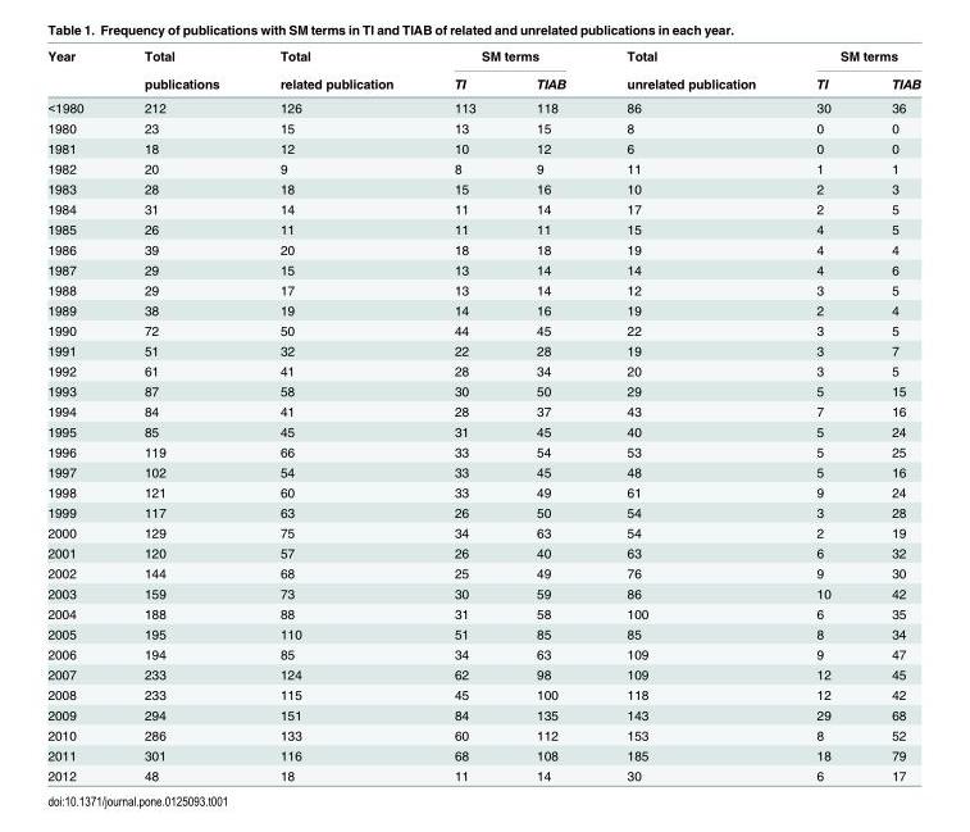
<table><thead><tr><td rowspan="2">Year</td><td rowspan="2">Total publications</td><td rowspan="2">Total related publication</td><td colspan="2">SM terms</td><td rowspan="2">Total unrelated publication</td><td colspan="2">SM terms</td></tr><tr><td>TI</td><td>TIAB</td><td>TI</td><td>TIAB</td></tr></thead><tbody><tr><td>&lt;1980</td><td>212</td><td>126</td><td>113</td><td>118</td><td>86</td><td>30</td><td>36</td></tr><tr><td>1980</td><td>23</td><td>15</td><td>13</td><td>15</td><td>8</td><td>0</td><td>0</td></tr><tr><td>1981</td><td>18</td><td>12</td><td>10</td><td>12</td><td>6</td><td>0</td><td>0</td></tr><tr><td>1982</td><td>20</td><td>9</td><td>8</td><td>9</td><td>11</td><td>1</td><td>1</td></tr><tr><td>1983</td><td>28</td><td>18</td><td>15</td><td>16</td><td>10</td><td>2</td><td>3</td></tr><tr><td>1984</td><td>31</td><td>14</td><td>11</td><td>14</td><td>17</td><td>2</td><td>5</td></tr><tr><td>1985</td><td>26</td><td>11</td><td>11</td><td>11</td><td>15</td><td>4</td><td>5</td></tr><tr><td>1986</td><td>39</td><td>20</td><td>18</td><td>18</td><td>19</td><td>4</td><td>4</td></tr><tr><td>1987</td><td>29</td><td>15</td><td>13</td><td>14</td><td>14</td><td>4</td><td>6</td></tr><tr><td>1988</td><td>29</td><td>17</td><td>13</td><td>14</td><td>12</td><td>3</td><td>5</td></tr><tr><td>1989</td><td>38</td><td>19</td><td>14</td><td>16</td><td>19</td><td>2</td><td>4</td></tr><tr><td>1990</td><td>72</td><td>50</td><td>44</td><td>45</td><td>22</td><td>3</td><td>5</td></tr><tr><td>1991</td><td>51</td><td>32</td><td>22</td><td>28</td><td>19</td><td>3</td><td>7</td></tr><tr><td>1992</td><td>61</td><td>41</td><td>28</td><td>34</td><td>20</td><td>3</td><td>5</td></tr><tr><td>1993</td><td>87</td><td>58</td><td>30</td><td>50</td><td>29</td><td>5</td><td>15</td></tr><tr><td>1994</td><td>84</td><td>41</td><td>28</td><td>37</td><td>43</td><td>7</td><td>16</td></tr><tr><td>1995</td><td>85</td><td>45</td><td>31</td><td>45</td><td>40</td><td>5</td><td>24</td></tr><tr><td>1996</td><td>119</td><td>66</td><td>33</td><td>54</td><td>53</td><td>5</td><td>25</td></tr><tr><td>1997</td><td>102</td><td>54</td><td>33</td><td>45</td><td>48</td><td>5</td><td>16</td></tr><tr><td>1998</td><td>121</td><td>60</td><td>33</td><td>49</td><td>61</td><td>9</td><td>24</td></tr><tr><td>1999</td><td>117</td><td>63</td><td>26</td><td>50</td><td>54</td><td>3</td><td>28</td></tr><tr><td>2000</td><td>129</td><td>75</td><td>34</td><td>63</td><td>54</td><td>2</td><td>19</td></tr><tr><td>2001</td><td>120</td><td>57</td><td>26</td><td>40</td><td>63</td><td>6</td><td>32</td></tr><tr><td>2002</td><td>144</td><td>68</td><td>25</td><td>49</td><td>76</td><td>9</td><td>30</td></tr><tr><td>2003</td><td>159</td><td>73</td><td>30</td><td>59</td><td>86</td><td>10</td><td>42</td></tr><tr><td>2004</td><td>188</td><td>88</td><td>31</td><td>58</td><td>100</td><td>6</td><td>35</td></tr><tr><td>2005</td><td>195</td><td>110</td><td>51</td><td>85</td><td>85</td><td>8</td><td>34</td></tr><tr><td>2006</td><td>194</td><td>85</td><td>34</td><td>63</td><td>109</td><td>9</td><td>47</td></tr><tr><td>2007</td><td>233</td><td>124</td><td>62</td><td>98</td><td>109</td><td>12</td><td>45</td></tr><tr><td>2008</td><td>233</td><td>115</td><td>45</td><td>100</td><td>118</td><td>12</td><td>42</td></tr><tr><td>2009</td><td>294</td><td>151</td><td>84</td><td>135</td><td>143</td><td>29</td><td>68</td></tr><tr><td>2010</td><td>286</td><td>133</td><td>60</td><td>112</td><td>153</td><td>8</td><td>52</td></tr><tr><td>2011</td><td>301</td><td>116</td><td>68</td><td>108</td><td>185</td><td>18</td><td>79</td></tr><tr><td>2012</td><td>48</td><td>18</td><td>11</td><td>14</td><td>30</td><td>6</td><td>17</td></tr></tbody></table>